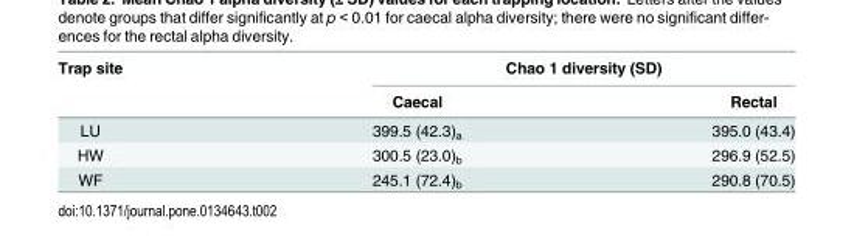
<table><thead><tr><td rowspan="2">Trap site</td><td colspan="2">Chao 1 diversity (SD)</td></tr><tr><td>Caecal</td><td>Rectal</td></tr></thead><tbody><tr><td>LU</td><td>399.5 (42.3)<sub>a</sub></td><td>395.0 (43.4)</td></tr><tr><td>HW</td><td>300.5 (23.0)<sub>b</sub></td><td>296.9 (52.5)</td></tr><tr><td>WF</td><td>245.1 (72.4)<sub>b</sub></td><td>290.8 (70.5)</td></tr></tbody></table>